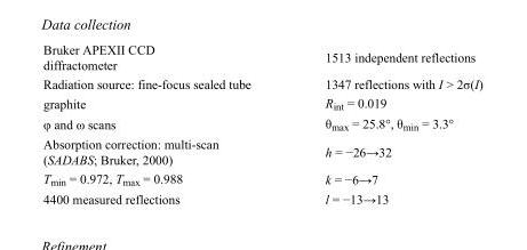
<table><tbody><tr><td>Bruker APEXII CCD diffractometer</td><td>1513 independent reflections</td></tr><tr><td>Radiation source: fine-focus sealed tube</td><td>1347 reflections with I &gt; 2σ(I)</td></tr><tr><td>graphite</td><td>R<sub>int</sub> = 0.019</td></tr><tr><td>φ and ω scans</td><td>θ<sub>max</sub> = 25.8°, θ<sub>min</sub> = 3.3°</td></tr><tr><td>Absorption correction: multi-scan (SADABS; Bruker, 2000)</td><td>h = −26→32</td></tr><tr><td>T<sub>min</sub> = 0.972, T<sub>max</sub> = 0.988</td><td>k = −6→7</td></tr><tr><td>4400 measured reflections</td><td>l = −13→13</td></tr></tbody></table>